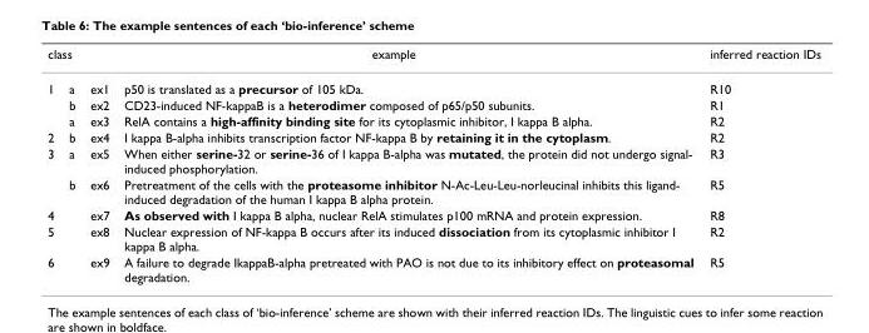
<table><thead><tr><td colspan="2">class</td><td colspan="2">example</td><td rowspan="2">inferred reaction IDs R10</td></tr><tr><td>1</td><td>a</td><td>ex1</td><td>p50 is translated as a precursor of 105 kDa.</td></tr></thead><tbody><tr><td></td><td>b</td><td>ex2</td><td>CD23-induced NF-kappaB is a heterodimer composed of p65/p50 subunits.</td><td>R1</td></tr><tr><td rowspan="2">2</td><td>a</td><td>ex3</td><td>RelA contains a high-affinity binding site for its cytoplasmic inhibitor, I kappa B alpha.</td><td>R2</td></tr><tr><td>b</td><td>ex4</td><td>I kappa B-alpha inhibits transcription factor NF-kappa B by retaining it in the cytoplasm.</td><td>R2</td></tr><tr><td rowspan="2">3</td><td>a</td><td>ex5</td><td>When either serine-32 or serine-36 of I kappa B-alpha was mutated, the protein did not undergo signal- induced phosphorylation.</td><td>R3</td></tr><tr><td>b</td><td>ex6</td><td>Pretreatment of the cells with the proteasome inhibitor N-Ac-Leu-Leu-norleucinal inhibits this ligand- induced degradation of the human I kappa B alpha protein.</td><td>R5</td></tr><tr><td>4</td><td></td><td>ex7</td><td>As observed with I kappa B alpha, nuclear RelA stimulates p100 mRNA and protein expression.</td><td>R8</td></tr><tr><td>5</td><td></td><td>ex8</td><td>Nuclear expression of NF-kappa B occurs after its induced dissociation from its cytoplasmic inhibitor I kappa B alpha.</td><td>R2</td></tr><tr><td>6</td><td></td><td>ex9</td><td>A failure to degrade IkappaB-alpha pretreated with PAO is not due to its inhibitory effect on proteasomal degradation.</td><td>R5</td></tr></tbody></table>